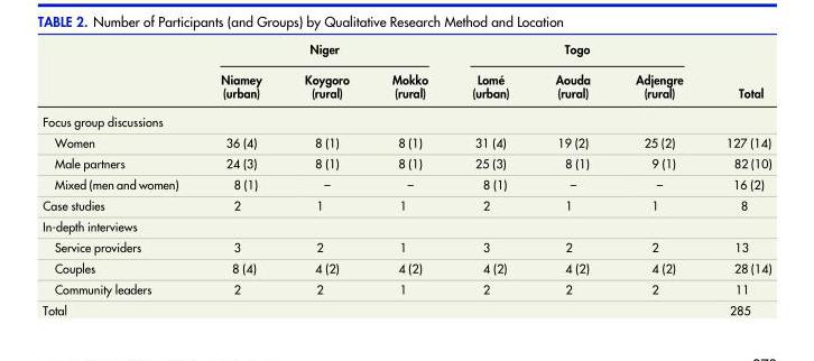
<table><thead><tr><td rowspan="2"></td><td colspan="3">Niger</td><td colspan="3">Togo</td><td rowspan="2">Total</td></tr><tr><td>Niamey (urban)</td><td>Koygoro (rural)</td><td>Mokko (rural)</td><td>Lomé (urban)</td><td>Aouda (rural)</td><td>Adjengre (rural)</td></tr></thead><tbody><tr><td colspan="8">Focus group discussions</td></tr><tr><td>Women</td><td>36 (4)</td><td>8 (1)</td><td>8 (1)</td><td>31 (4)</td><td>19 (2)</td><td>25 (2)</td><td>127 (14)</td></tr><tr><td>Male partners</td><td>24 (3)</td><td>8 (1)</td><td>8 (1)</td><td>25 (3)</td><td>8 (1)</td><td>9 (1)</td><td>82 (10)</td></tr><tr><td>Mixed (men and women)</td><td>8 (1)</td><td>–</td><td>–</td><td>8 (1)</td><td>–</td><td>–</td><td>16 (2)</td></tr><tr><td>Case studies</td><td>2</td><td>1</td><td>1</td><td>2</td><td>1</td><td>1</td><td>8</td></tr><tr><td colspan="8">In-depth interviews</td></tr><tr><td>Service providers</td><td>3</td><td>2</td><td>1</td><td>3</td><td>2</td><td>2</td><td>13</td></tr><tr><td>Couples</td><td>8 (4)</td><td>4 (2)</td><td>4 (2)</td><td>4 (2)</td><td>4 (2)</td><td>4 (2)</td><td>28 (14)</td></tr><tr><td>Community leaders</td><td>2</td><td>2</td><td>1</td><td>2</td><td>2</td><td>2</td><td>11</td></tr><tr><td>Total</td><td></td><td></td><td></td><td></td><td></td><td></td><td>285</td></tr></tbody></table>